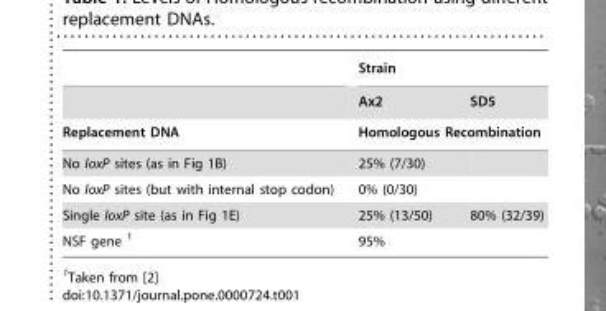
<table><thead><tr><td rowspan="3">Replacement DNA</td><td colspan="2">Strain</td></tr><tr><td>Ax2</td><td>SD5</td></tr><tr><td colspan="2">Homologous Recombination</td></tr></thead><tbody><tr><td>No loxP sites (as in Fig 1B)</td><td>25% (7/30)</td><td></td></tr><tr><td>No loxP sites (but with internal stop codon)</td><td>0% (0/30)</td><td></td></tr><tr><td>Single loxP site (as in Fig 1E)</td><td>25% (13/50)</td><td>80% (32/39)</td></tr><tr><td>NSF gene 1</td><td>95%</td><td></td></tr></tbody></table>